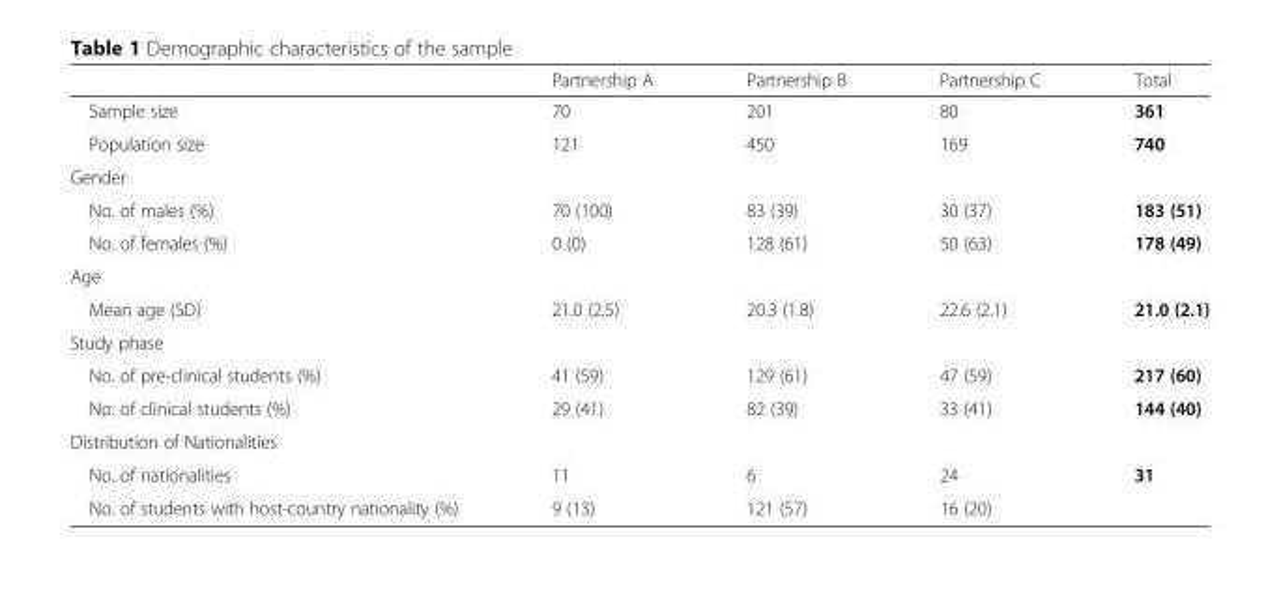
<table><thead><tr><td></td><td>Partnership A</td><td>Partnership B</td><td>Partnership C</td><td>Total</td></tr></thead><tbody><tr><td>Sample size</td><td>70</td><td>201</td><td>80</td><td>361</td></tr><tr><td>Population size</td><td>121</td><td>450</td><td>169</td><td>740</td></tr><tr><td colspan="5">Gender</td></tr><tr><td>No. of males (%)</td><td>70 (100)</td><td>83 (39)</td><td>30 (37)</td><td>183 (51)</td></tr><tr><td>No. of females (%)</td><td>0 (0)</td><td>128 (61)</td><td>50 (63)</td><td>178 (49)</td></tr><tr><td colspan="5">Age</td></tr><tr><td>Mean age (SD)</td><td>21.0 (2.5)</td><td>20.3 (1.8)</td><td>22.6 (2.1)</td><td>21.0 (2.1)</td></tr><tr><td colspan="5">Study phase</td></tr><tr><td>No. of pre-clinical students (%)</td><td>41 (59)</td><td>129 (61)</td><td>47 (59)</td><td>217 (60)</td></tr><tr><td>No. of clinical students (%)</td><td>29 (41)</td><td>82 (39)</td><td>33 (41)</td><td>144 (40)</td></tr><tr><td colspan="5">Distribution of Nationalities</td></tr><tr><td>No. of nationalities</td><td>11</td><td>6</td><td>24</td><td>31</td></tr><tr><td>No. of students with host-country nationality (%)</td><td>9 (13)</td><td>121 (57)</td><td>16 (20)</td><td></td></tr></tbody></table>